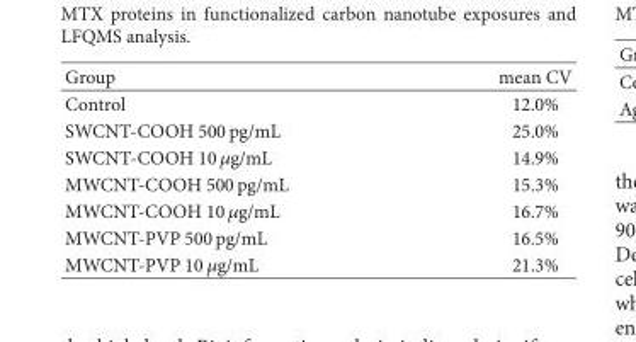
<table><thead><tr><td>Group</td><td>mean CV</td></tr></thead><tbody><tr><td>Control</td><td>12.0%</td></tr><tr><td>SWCNT-COOH 500 pg/mL</td><td>25.0%</td></tr><tr><td>SWCNT-COOH 10 𝜇𝜇g/mL</td><td>14.9%</td></tr><tr><td>MWCNT-COOH 500 pg/mL</td><td>15.3%</td></tr><tr><td>MWCNT-COOH 10 𝜇𝜇g/mL</td><td>16.7%</td></tr><tr><td>MWCNT-PVP 500 pg/mL</td><td>16.5%</td></tr><tr><td>MWCNT-PVP 10 𝜇𝜇g/mL</td><td>21.3%</td></tr></tbody></table>